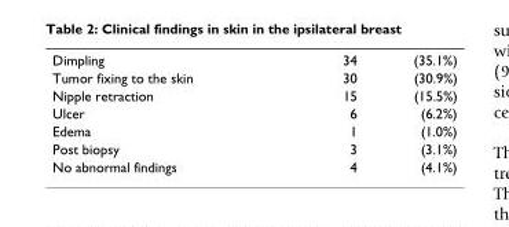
<table><tbody><tr><td>Dimpling</td><td>34</td><td>(35.1%)</td></tr><tr><td>Tumor fixing to the skin</td><td>30</td><td>(30.9%)</td></tr><tr><td>Nipple retraction</td><td>15</td><td>(15.5%)</td></tr><tr><td>Ulcer</td><td>6</td><td>(6.2%)</td></tr><tr><td>Edema</td><td>1</td><td>(1.0%)</td></tr><tr><td>Post biopsy</td><td>3</td><td>(3.1%)</td></tr><tr><td>No abnormal findings</td><td>4</td><td>(4.1%)</td></tr></tbody></table>